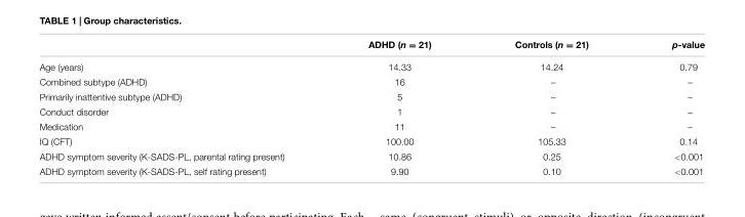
<table><thead><tr><td></td><td>ADHD (n = 21)</td><td>Controls (n = 21)</td><td>p-value</td></tr></thead><tbody><tr><td>Age (years)</td><td>14.33</td><td>14.24</td><td>0.79</td></tr><tr><td>Combined subtype (ADHD)</td><td>16</td><td>–</td><td>–</td></tr><tr><td>Primarily inattentive subtype (ADHD)</td><td>5</td><td>–</td><td>–</td></tr><tr><td>Conduct disorder</td><td>1</td><td>–</td><td>–</td></tr><tr><td>Medication</td><td>11</td><td>–</td><td>–</td></tr><tr><td>IQ (CFT)</td><td>100.00</td><td>105.33</td><td>0.14</td></tr><tr><td>ADHD symptom severity (K-SADS-PL, parental rating present)</td><td>10.86</td><td>0.25</td><td>&lt;0.001</td></tr><tr><td>ADHD symptom severity (K-SADS-PL, self rating present)</td><td>9.90</td><td>0.10</td><td>&lt;0.001</td></tr></tbody></table>